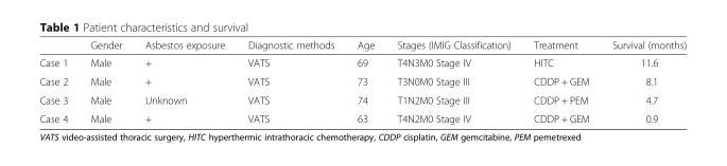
<table><thead><tr><td></td><td>Gender</td><td>Asbestos exposure</td><td>Diagnostic methods</td><td>Age</td><td>Stages (IMIG Classification)</td><td>Treatment</td><td>Survival (months)</td></tr></thead><tbody><tr><td>Case 1</td><td>Male</td><td>+</td><td>VATS</td><td>69</td><td>T4N3M0 Stage IV</td><td>HITC</td><td>11.6</td></tr><tr><td>Case 2</td><td>Male</td><td>+</td><td>VATS</td><td>73</td><td>T3N0M0 Stage III</td><td>CDDP + GEM</td><td>8.1</td></tr><tr><td>Case 3</td><td>Male</td><td>Unknown</td><td>VATS</td><td>74</td><td>T1N2M0 Stage III</td><td>CDDP + PEM</td><td>4.7</td></tr><tr><td>Case 4</td><td>Male</td><td>+</td><td>VATS</td><td>63</td><td>T4N2M0 Stage IV</td><td>CDDP + GEM</td><td>0.9</td></tr></tbody></table>